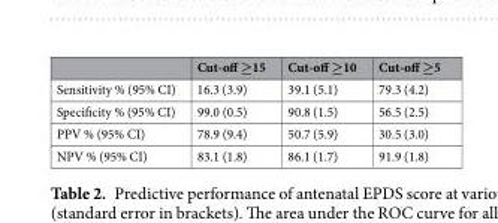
<table><thead><tr><td></td><td>Cut-off ≥15</td><td>Cut-off ≥10</td><td>Cut-off ≥5</td></tr></thead><tbody><tr><td>Sensitivity % (95% CI)</td><td>16.3 (3.9)</td><td>39.1 (5.1)</td><td>79.3 (4.2)</td></tr><tr><td>Specificity % (95% CI)</td><td>99.0 (0.5)</td><td>90.8 (1.5)</td><td>56.5 (2.5)</td></tr><tr><td>PPV % (95% CI)</td><td>78.9 (9.4)</td><td>50.7 (5.9)</td><td>30.5 (3.0)</td></tr><tr><td>NPV % (95% CI)</td><td>83.1 (1.8)</td><td>86.1 (1.7)</td><td>91.9 (1.8)</td></tr></tbody></table>